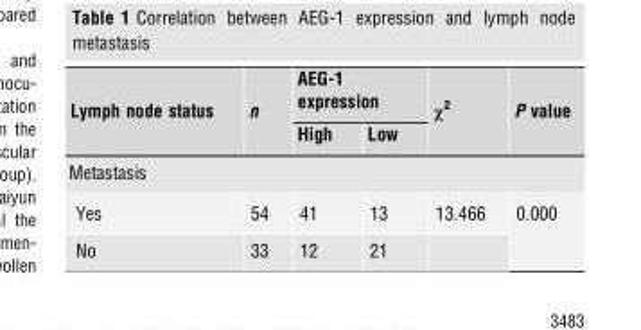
<table><thead><tr><td rowspan="2">Lymph node status</td><td rowspan="2">n</td><td colspan="2">AEG-1 expression</td><td rowspan="2">χ<sup>2</sup></td><td rowspan="2">P value</td></tr><tr><td>High</td><td>Low</td></tr></thead><tbody><tr><td colspan="6">Metastasis</td></tr><tr><td>Yes</td><td>54</td><td>41</td><td>13</td><td>13.466</td><td rowspan="2">0.000</td></tr><tr><td>No</td><td>33</td><td>12</td><td>21</td><td></td></tr></tbody></table>